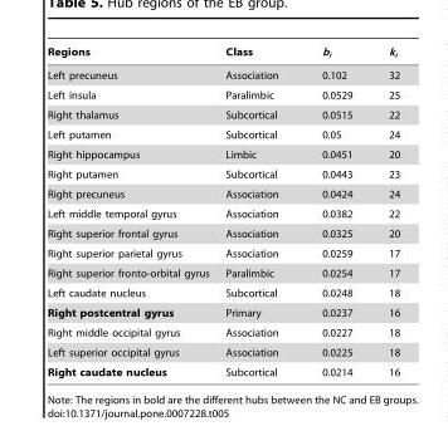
<table><thead><tr><td>Regions</td><td>Class</td><td>b<sub>i</sub></td><td>k<sub>i</sub></td></tr></thead><tbody><tr><td>Left precuneus</td><td>Association</td><td>0.102</td><td>32</td></tr><tr><td>Left insula</td><td>Paralimbic</td><td>0.0529</td><td>25</td></tr><tr><td>Right thalamus</td><td>Subcortical</td><td>0.0515</td><td>22</td></tr><tr><td>Left putamen</td><td>Subcortical</td><td>0.05</td><td>24</td></tr><tr><td>Right hippocampus</td><td>Limbic</td><td>0.0451</td><td>20</td></tr><tr><td>Right putamen</td><td>Subcortical</td><td>0.0443</td><td>23</td></tr><tr><td>Right precuneus</td><td>Association</td><td>0.0424</td><td>24</td></tr><tr><td>Left middle temporal gyrus</td><td>Association</td><td>0.0382</td><td>22</td></tr><tr><td>Right superior frontal gyrus</td><td>Association</td><td>0.0325</td><td>20</td></tr><tr><td>Right superior parietal gyrus</td><td>Association</td><td>0.0259</td><td>17</td></tr><tr><td>Right superior fronto-orbital gyrus</td><td>Paralimbic</td><td>0.0254</td><td>17</td></tr><tr><td>Left caudate nucleus</td><td>Subcortical</td><td>0.0248</td><td>18</td></tr><tr><td>Right postcentral gyrus</td><td>Primary</td><td>0.0237</td><td>16</td></tr><tr><td>Right middle occipital gyrus</td><td>Association</td><td>0.0227</td><td>18</td></tr><tr><td>Left superior occipital gyrus</td><td>Association</td><td>0.0225</td><td>18</td></tr><tr><td>Right caudate nucleus</td><td>Subcortical</td><td>0.0214</td><td>16</td></tr></tbody></table>